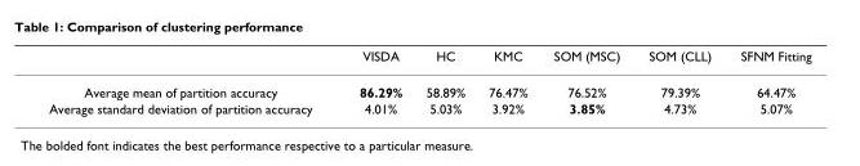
<table><thead><tr><td></td><td>VISDA</td><td>HC</td><td>KMC</td><td>SOM (MSC)</td><td>SOM (CLL)</td><td>SFNM Fitting</td></tr></thead><tbody><tr><td>Average mean of partition accuracy</td><td>86.29%</td><td>58.89%</td><td>76.47%</td><td>76.52%</td><td>79.39%</td><td>64.47%</td></tr><tr><td>Average standard deviation of partition accuracy</td><td>4.01%</td><td>5.03%</td><td>3.92%</td><td>3.85%</td><td>4.73%</td><td>5.07%</td></tr></tbody></table>